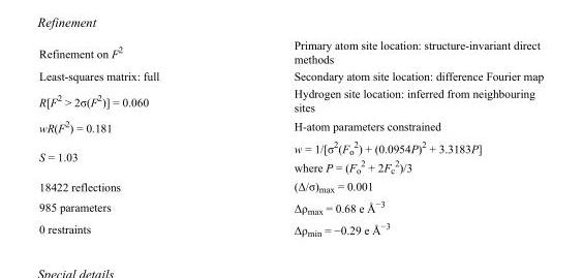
<table><tbody><tr><td>Refinement on F<sup>2</sup></td><td>Primary atom site location: structure-invariant direct methods</td></tr><tr><td>Least-squares matrix: full</td><td>Secondary atom site location: difference Fourier map</td></tr><tr><td>R[F<sup>2</sup> &gt; 2σ(F<sup>2</sup>)] = 0.060</td><td>Hydrogen site location: inferred from neighbouring sites</td></tr><tr><td>wR(F<sup>2</sup>) = 0.181</td><td>H-atom parameters constrained</td></tr><tr><td>S = 1.03</td><td>w = 1/[σ<sup>2</sup>(F<sub>o</sub> <sup>2</sup>) + (0.0954P)<sup>2</sup> + 3.3183P] where P = (F<sub>o</sub> <sup>2</sup> + 2F<sub>c</sub> <sup>2</sup>)/3</td></tr><tr><td>18422 reflections</td><td>(Δ/σ)<sub>max</sub> = 0.001</td></tr><tr><td>985 parameters</td><td>Δρ<sub>max</sub> = 0.68 e Å<sup>−3</sup></td></tr><tr><td>0 restraints</td><td>Δρ<sub>min</sub> = −0.29 e Å<sup>−3</sup></td></tr></tbody></table>